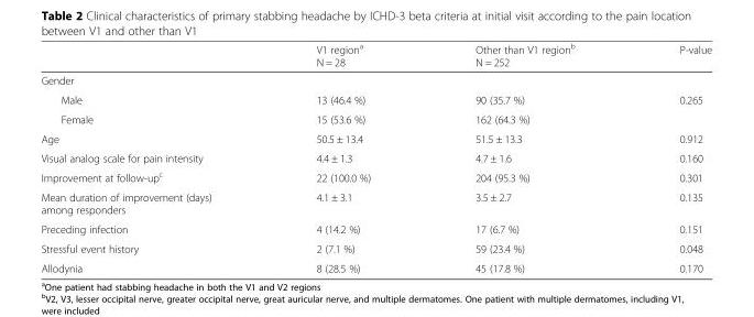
<table><thead><tr><td></td><td>V1 region<sup>a</sup> N = 28</td><td>Other than V1 region<sup>b</sup> N = 252</td><td>P-value</td></tr></thead><tbody><tr><td colspan="4">Gender</td></tr><tr><td>Male</td><td>13 (46.4 %)</td><td>90 (35.7 %)</td><td rowspan="2">0.265</td></tr><tr><td>Female</td><td>15 (53.6 %)</td><td>162 (64.3 %)</td></tr><tr><td>Age</td><td>50.5 ± 13.4</td><td>51.5 ± 13.3</td><td>0.912</td></tr><tr><td>Visual analog scale for pain intensity</td><td>4.4 ± 1.3</td><td>4.7 ± 1.6</td><td>0.160</td></tr><tr><td>Improvement at follow-up<sup>c</sup></td><td>22 (100.0 %)</td><td>204 (95.3 %)</td><td>0.301</td></tr><tr><td>Mean duration of improvement (days) among responders</td><td>4.1 ± 3.1</td><td>3.5 ± 2.7</td><td>0.135</td></tr><tr><td>Preceding infection</td><td>4 (14.2 %)</td><td>17 (6.7 %)</td><td>0.151</td></tr><tr><td>Stressful event history</td><td>2 (7.1 %)</td><td>59 (23.4 %)</td><td>0.048</td></tr><tr><td>Allodynia</td><td>8 (28.5 %)</td><td>45 (17.8 %)</td><td>0.170</td></tr></tbody></table>